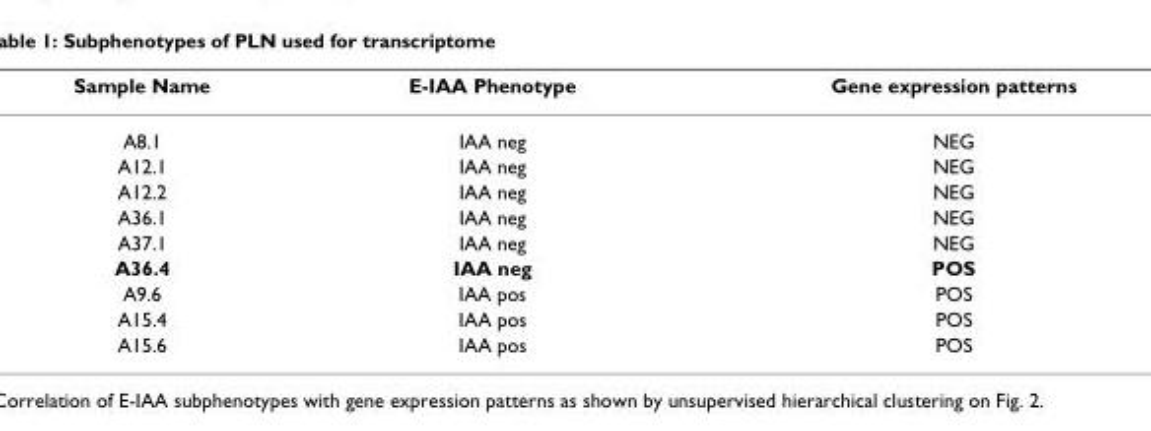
<table><thead><tr><td>Sample Name</td><td>E-IAA Phenotype</td><td>Gene expression patterns</td></tr></thead><tbody><tr><td>A8.1</td><td>IAA neg</td><td>NEG</td></tr><tr><td>A12.1</td><td>IAA neg</td><td>NEG</td></tr><tr><td>A12.2</td><td>IAA neg</td><td>NEG</td></tr><tr><td>A36.1</td><td>IAA neg</td><td>NEG</td></tr><tr><td>A37.1</td><td>IAA neg</td><td>NEG</td></tr><tr><td>A36.4</td><td>IAA neg</td><td>POS</td></tr><tr><td>A9.6</td><td>IAA pos</td><td>POS</td></tr><tr><td>A15.4</td><td>IAA pos</td><td>POS</td></tr><tr><td>A15.6</td><td>IAA pos</td><td>POS</td></tr></tbody></table>